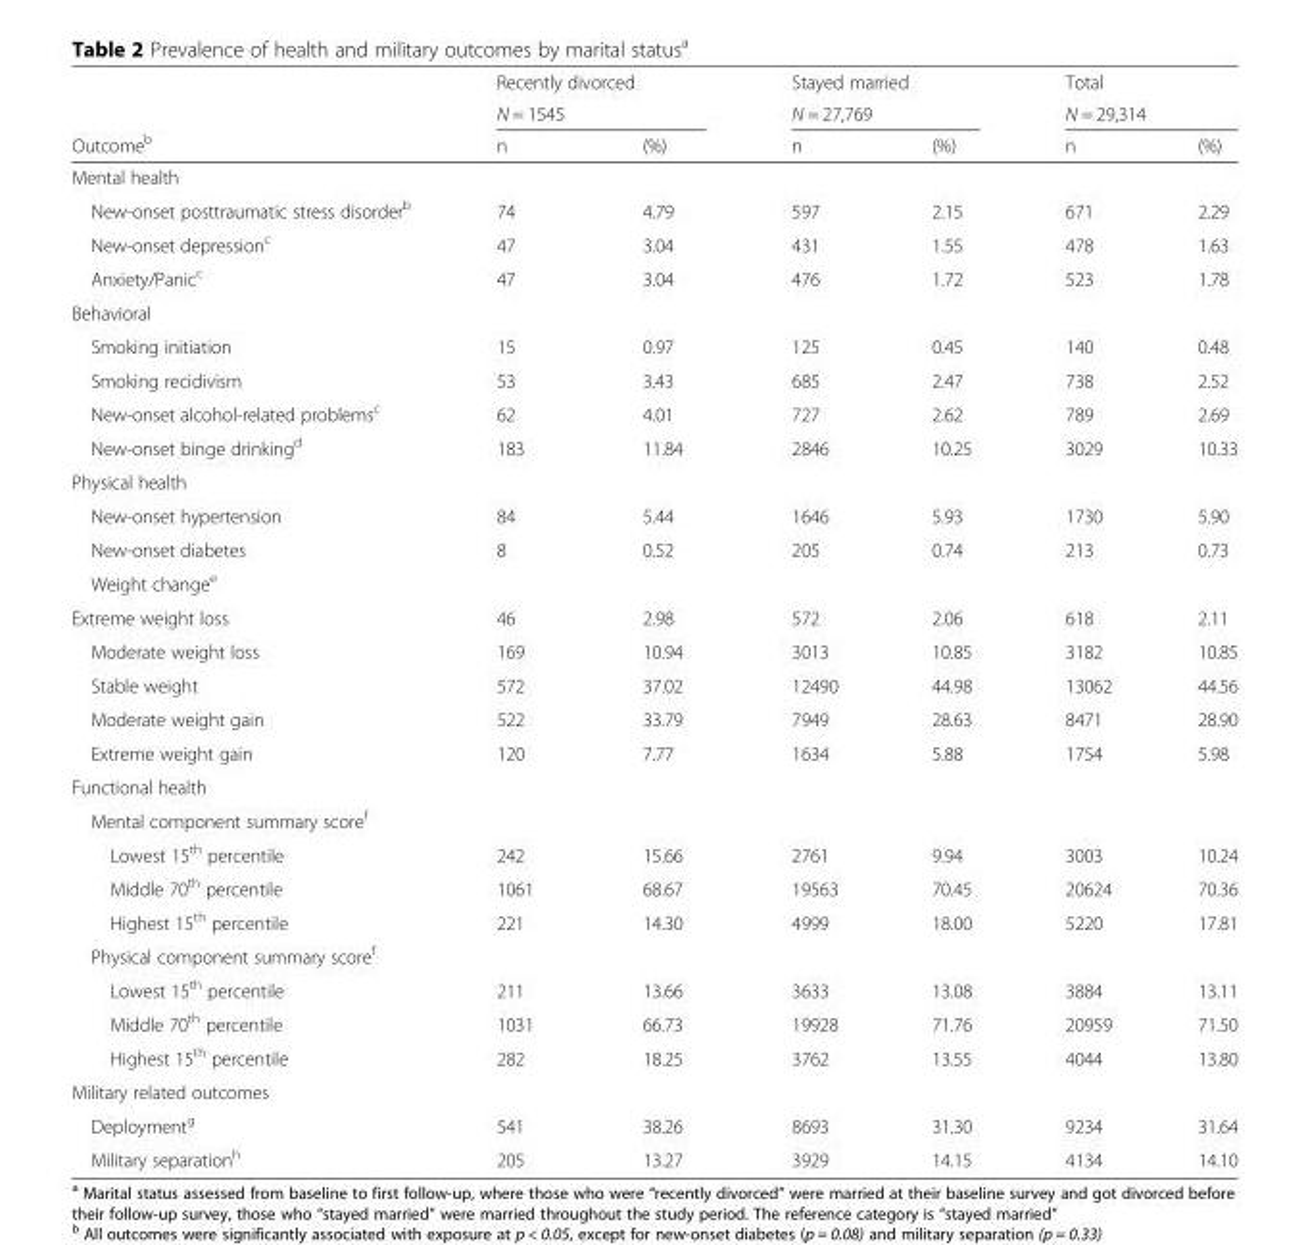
<table><thead><tr><td rowspan="3">Outcome<sup>b</sup></td><td rowspan="2" colspan="2">Recently divorced N = 1545</td><td rowspan="2" colspan="2">Stayed married N = 27,769</td><td rowspan="2" colspan="2">Total N = 29,314</td></tr><tr></tr><tr><td>n</td><td>(%)</td><td>n</td><td>(%)</td><td>n</td><td>(%)</td></tr></thead><tbody><tr><td colspan="7">Mental health</td></tr><tr><td>New-onset posttraumatic stress disorder<sup>b</sup></td><td>74</td><td>4.79</td><td>597</td><td>2.15</td><td>671</td><td>2.29</td></tr><tr><td>New-onset depression<sup>c</sup></td><td>47</td><td>3.04</td><td>431</td><td>1.55</td><td>478</td><td>1.63</td></tr><tr><td>Anxiety/Panic<sup>c</sup></td><td>47</td><td>3.04</td><td>476</td><td>1.72</td><td>523</td><td>1.78</td></tr><tr><td colspan="7">Behavioral</td></tr><tr><td>Smoking initiation</td><td>15</td><td>0.97</td><td>125</td><td>0.45</td><td>140</td><td>0.48</td></tr><tr><td>Smoking recidivism</td><td>53</td><td>3.43</td><td>685</td><td>2.47</td><td>738</td><td>2.52</td></tr><tr><td>New-onset alcohol-related problems<sup>c</sup></td><td>62</td><td>4.01</td><td>727</td><td>2.62</td><td>789</td><td>2.69</td></tr><tr><td>New-onset binge drinking<sup>d</sup></td><td>183</td><td>11.84</td><td>2846</td><td>10.25</td><td>3029</td><td>10.33</td></tr><tr><td colspan="7">Physical health</td></tr><tr><td>New-onset hypertension</td><td>84</td><td>5.44</td><td>1646</td><td>5.93</td><td>1730</td><td>5.90</td></tr><tr><td>New-onset diabetes</td><td>8</td><td>0.52</td><td>205</td><td>0.74</td><td>213</td><td>0.73</td></tr><tr><td colspan="7">Weight change<sup>e</sup></td></tr><tr><td>Extreme weight loss</td><td>46</td><td>2.98</td><td>572</td><td>2.06</td><td>618</td><td>2.11</td></tr><tr><td>Moderate weight loss</td><td>169</td><td>10.94</td><td>3013</td><td>10.85</td><td>3182</td><td>10.85</td></tr><tr><td>Stable weight</td><td>572</td><td>37.02</td><td>12490</td><td>44.98</td><td>13062</td><td>44.56</td></tr><tr><td>Moderate weight gain</td><td>522</td><td>33.79</td><td>7949</td><td>28.63</td><td>8471</td><td>28.90</td></tr><tr><td>Extreme weight gain</td><td>120</td><td>7.77</td><td>1634</td><td>5.88</td><td>1754</td><td>5.98</td></tr><tr><td colspan="7">Functional health</td></tr><tr><td colspan="7">Mental component summary score<sup>f</sup></td></tr><tr><td>Lowest 15<sup>th</sup> percentile</td><td>242</td><td>15.66</td><td>2761</td><td>9.94</td><td>3003</td><td>10.24</td></tr><tr><td>Middle 70<sup>th</sup> percentile</td><td>1061</td><td>68.67</td><td>19563</td><td>70.45</td><td>20624</td><td>70.36</td></tr><tr><td>Highest 15<sup>th</sup> percentile</td><td>221</td><td>14.30</td><td>4999</td><td>18.00</td><td>5220</td><td>17.81</td></tr><tr><td colspan="7">Physical component summary score<sup>f</sup></td></tr><tr><td>Lowest 15<sup>th</sup> percentile</td><td>211</td><td>13.66</td><td>3633</td><td>13.08</td><td>3884</td><td>13.11</td></tr><tr><td>Middle 70<sup>th</sup> percentile</td><td>1031</td><td>66.73</td><td>19928</td><td>71.76</td><td>20959</td><td>71.50</td></tr><tr><td>Highest 15<sup>th</sup> percentile</td><td>282</td><td>18.25</td><td>3762</td><td>13.55</td><td>4044</td><td>13.80</td></tr><tr><td colspan="7">Military related outcomes</td></tr><tr><td>Deployment<sup>g</sup></td><td>541</td><td>38.26</td><td>8693</td><td>31.30</td><td>9234</td><td>31.64</td></tr><tr><td>Military separation<sup>h</sup></td><td>205</td><td>13.27</td><td>3929</td><td>14.15</td><td>4134</td><td>14.10</td></tr></tbody></table>